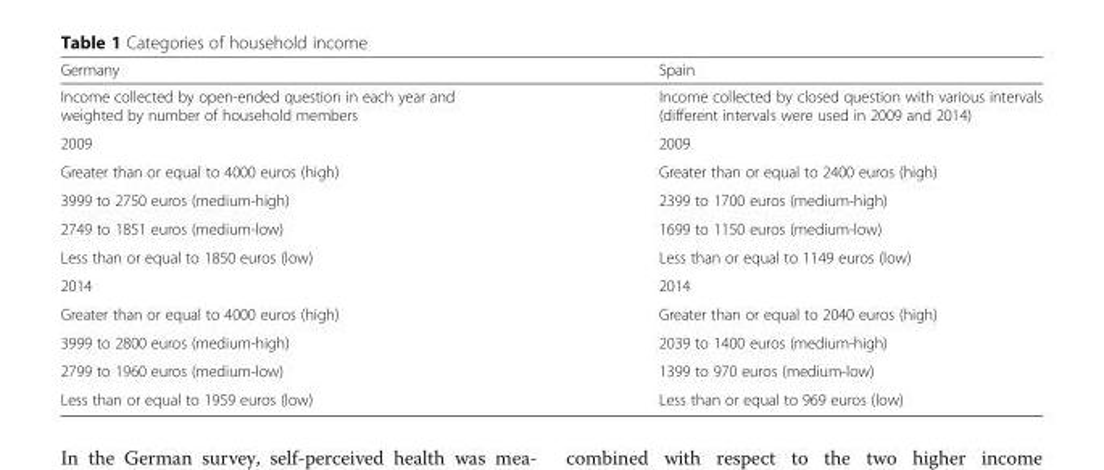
<table><thead><tr><td>Germany</td><td>Spain</td></tr></thead><tbody><tr><td>Income collected by open-ended question in each year and weighted by number of household members</td><td>Income collected by closed question with various intervals (different intervals were used in 2009 and 2014)</td></tr><tr><td>2009</td><td>2009</td></tr><tr><td>Greater than or equal to 4000 euros (high)</td><td>Greater than or equal to 2400 euros (high)</td></tr><tr><td>3999 to 2750 euros (medium-high)</td><td>2399 to 1700 euros (medium-high)</td></tr><tr><td>2749 to 1851 euros (medium-low)</td><td>1699 to 1150 euros (medium-low)</td></tr><tr><td>Less than or equal to 1850 euros (low)</td><td>Less than or equal to 1149 euros (low)</td></tr><tr><td>2014</td><td>2014</td></tr><tr><td>Greater than or equal to 4000 euros (high)</td><td>Greater than or equal to 2040 euros (high)</td></tr><tr><td>3999 to 2800 euros (medium-high)</td><td>2039 to 1400 euros (medium-high)</td></tr><tr><td>2799 to 1960 euros (medium-low)</td><td>1399 to 970 euros (medium-low)</td></tr><tr><td>Less than or equal to 1959 euros (low)</td><td>Less than or equal to 969 euros (low)</td></tr></tbody></table>